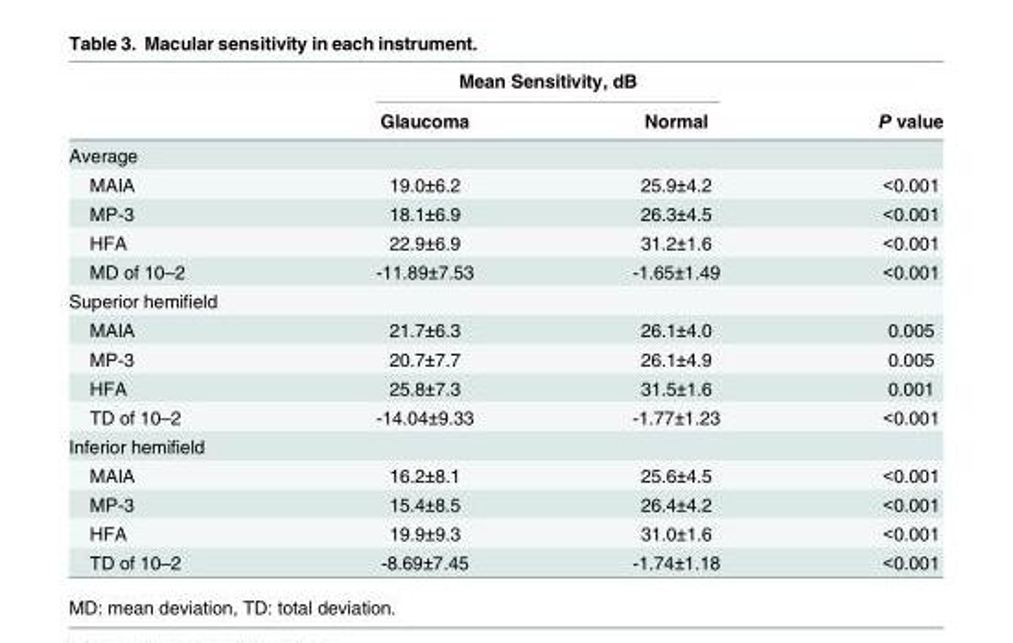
<table><thead><tr><td rowspan="2"></td><td colspan="2">Mean Sensitivity, dB</td><td rowspan="2">P value</td></tr><tr><td>Glaucoma</td><td>Normal</td></tr></thead><tbody><tr><td colspan="4">Average</td></tr><tr><td>MAIA</td><td>19.0±6.2</td><td>25.9±4.2</td><td>&lt;0.001</td></tr><tr><td>MP-3</td><td>18.1±6.9</td><td>26.3±4.5</td><td>&lt;0.001</td></tr><tr><td>HFA</td><td>22.9±6.9</td><td>31.2±1.6</td><td>&lt;0.001</td></tr><tr><td>MD of 10–2</td><td>-11.89±7.53</td><td>-1.65±1.49</td><td>&lt;0.001</td></tr><tr><td colspan="4">Superior hemifield</td></tr><tr><td>MAIA</td><td>21.7±6.3</td><td>26.1±4.0</td><td>0.005</td></tr><tr><td>MP-3</td><td>20.7±7.7</td><td>26.1±4.9</td><td>0.005</td></tr><tr><td>HFA</td><td>25.8±7.3</td><td>31.5±1.6</td><td>0.001</td></tr><tr><td>TD of 10–2</td><td>-14.04±9.33</td><td>-1.77±1.23</td><td>&lt;0.001</td></tr><tr><td colspan="4">Inferior hemifield</td></tr><tr><td>MAIA</td><td>16.2±8.1</td><td>25.6±4.5</td><td>&lt;0.001</td></tr><tr><td>MP-3</td><td>15.4±8.5</td><td>26.4±4.2</td><td>&lt;0.001</td></tr><tr><td>HFA</td><td>19.9±9.3</td><td>31.0±1.6</td><td>&lt;0.001</td></tr><tr><td>TD of 10–2</td><td>-8.69±7.45</td><td>-1.74±1.18</td><td>&lt;0.001</td></tr></tbody></table>